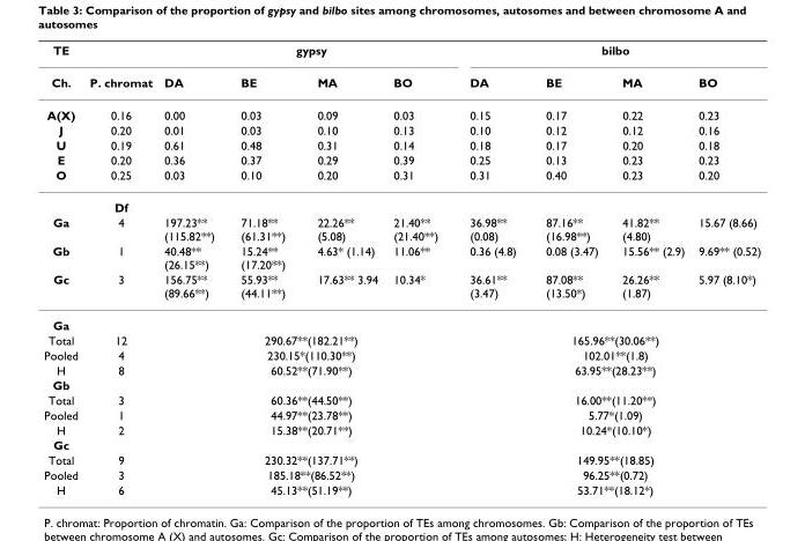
<table><thead><tr><td rowspan="2">TE Ch.</td><td rowspan="2">P. chromat</td><td colspan="4">gypsy</td><td colspan="4">bilbo</td></tr><tr><td>DA</td><td>BE</td><td>MA</td><td>BO</td><td>DA</td><td>BE</td><td>MA</td><td>BO</td></tr></thead><tbody><tr><td>A(X)</td><td>0.16</td><td>0.00</td><td>0.03</td><td>0.09</td><td>0.03</td><td>0.15</td><td>0.17</td><td>0.22</td><td>0.23</td></tr><tr><td>J</td><td>0.20</td><td>0.01</td><td>0.03</td><td>0.10</td><td>0.13</td><td>0.10</td><td>0.12</td><td>0.12</td><td>0.16</td></tr><tr><td>U</td><td>0.19</td><td>0.61</td><td>0.48</td><td>0.31</td><td>0.14</td><td>0.18</td><td>0.17</td><td>0.20</td><td>0.18</td></tr><tr><td>E</td><td>0.20</td><td>0.36</td><td>0.37</td><td>0.29</td><td>0.39</td><td>0.25</td><td>0.13</td><td>0.23</td><td>0.23</td></tr><tr><td rowspan="2">O</td><td>0.25</td><td>0.03</td><td>0.10</td><td>0.20</td><td>0.31</td><td>0.31</td><td>0.40</td><td>0.23</td><td>0.20</td></tr><tr><td>Df</td><td></td><td></td><td></td><td></td><td></td><td></td><td></td><td></td></tr><tr><td>Ga</td><td>4</td><td>197.23** (115.82**)</td><td>71.18** (61.31**)</td><td>22.26** (5.08)</td><td>21.40** (21.40**)</td><td>36.98** (0.08)</td><td>87.16** (16.98**)</td><td>41.82** (4.80)</td><td>15.67 (8.66)</td></tr><tr><td>Gb</td><td>1</td><td>40.48** (26.15**)</td><td>15.24** (17.20**)</td><td>4.63* (1.14)</td><td>11.06**</td><td>0.36 (4.8)</td><td>0.08 (3.47)</td><td>15.56** (2.9)</td><td>9.69** (0.52)</td></tr><tr><td>Gc</td><td>3</td><td>156.75** (89.66**)</td><td>55.93** (44.11**)</td><td>17.63** 3.94</td><td>10.34*</td><td>36.61** (3.47)</td><td>87.08** (13.50*)</td><td>26.26** (1.87)</td><td>5.97 (8.10*)</td></tr><tr><td colspan="10">Ga</td></tr><tr><td>Total</td><td>12</td><td colspan="4">290.67**(182.21**)</td><td colspan="4">165.96**(30.06**)</td></tr><tr><td>Pooled</td><td>4</td><td colspan="4">230.15*(110.30**)</td><td colspan="4">102.01**(1.8)</td></tr><tr><td>H</td><td>8</td><td colspan="4">60.52**(71.90**)</td><td colspan="4">63.95**(28.23**)</td></tr><tr><td colspan="10">Gb</td></tr><tr><td>Total</td><td>3</td><td colspan="4">60.36**(44.50**)</td><td colspan="4">16.00**(11.20**)</td></tr><tr><td>Pooled</td><td>1</td><td colspan="4">44.97**(23.78**)</td><td colspan="4">5.77*(1.09)</td></tr><tr><td>H</td><td>2</td><td colspan="4">15.38**(20.71**)</td><td colspan="4">10.24*(10.10*)</td></tr><tr><td colspan="10">Gc</td></tr><tr><td>Total</td><td>9</td><td colspan="4">230.32**(137.71**)</td><td colspan="4">149.95**(18.85)</td></tr><tr><td>Pooled</td><td>3</td><td colspan="4">185.18**(86.52**)</td><td colspan="4">96.25**(0.72)</td></tr><tr><td>H</td><td>6</td><td colspan="4">45.13**(51.19**)</td><td colspan="4">53.71**(18.12*)</td></tr></tbody></table>